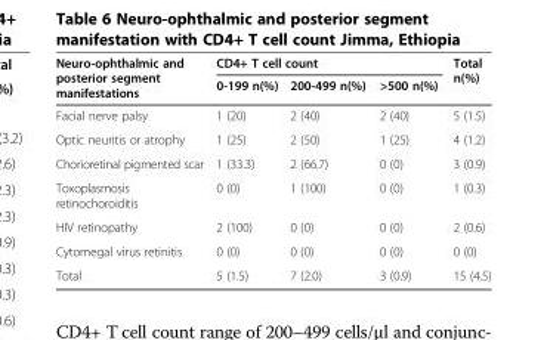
<table><thead><tr><td rowspan="2">Neuro-ophthalmic and posterior segment manifestations</td><td colspan="3">CD4+ T cell count</td><td rowspan="2">Total n(%)</td></tr><tr><td>0-199 n(%)</td><td>200-499 n(%)</td><td>&gt;500 n(%)</td></tr></thead><tbody><tr><td>Facial nerve palsy</td><td>1 (20)</td><td>2 (40)</td><td>2 (40)</td><td>5 (1.5)</td></tr><tr><td>Optic neuritis or atrophy</td><td>1 (25)</td><td>2 (50)</td><td>1 (25)</td><td>4 (1.2)</td></tr><tr><td>Chorioretinal pigmented scar</td><td>1 (33.3)</td><td>2 (66.7)</td><td>0 (0)</td><td>3 (0.9)</td></tr><tr><td>Toxoplasmosis retinochoroiditis</td><td>0 (0)</td><td>1 (100)</td><td>0 (0)</td><td>1 (0.3)</td></tr><tr><td>HIV retinopathy</td><td>2 (100)</td><td>0 (0)</td><td>0 (0)</td><td>2 (0.6)</td></tr><tr><td>Cytomegal virus retinitis</td><td>0 (0)</td><td>0 (0)</td><td>0 (0)</td><td>0 (0)</td></tr><tr><td>Total</td><td>5 (1.5)</td><td>7 (2.0)</td><td>3 (0.9)</td><td>15 (4.5)</td></tr></tbody></table>